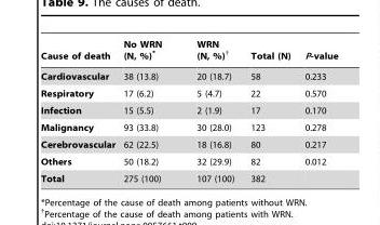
<table><thead><tr><td>Cause of death</td><td>No WRN (N, %)*</td><td>WRN (N, %)†</td><td>Total (N)</td><td>P-value</td></tr></thead><tbody><tr><td>Cardiovascular</td><td>38 (13.8)</td><td>20 (18.7)</td><td>58</td><td>0.233</td></tr><tr><td>Respiratory</td><td>17 (6.2)</td><td>5 (4.7)</td><td>22</td><td>0.570</td></tr><tr><td>Infection</td><td>15 (5.5)</td><td>2 (1.9)</td><td>17</td><td>0.170</td></tr><tr><td>Malignancy</td><td>93 (33.8)</td><td>30 (28.0)</td><td>123</td><td>0.278</td></tr><tr><td>Cerebrovascular</td><td>62 (22.5)</td><td>18 (16.8)</td><td>80</td><td>0.217</td></tr><tr><td>Others</td><td>50 (18.2)</td><td>32 (29.9)</td><td>82</td><td>0.012</td></tr><tr><td>Total</td><td>275 (100)</td><td>107 (100)</td><td>382</td><td></td></tr></tbody></table>